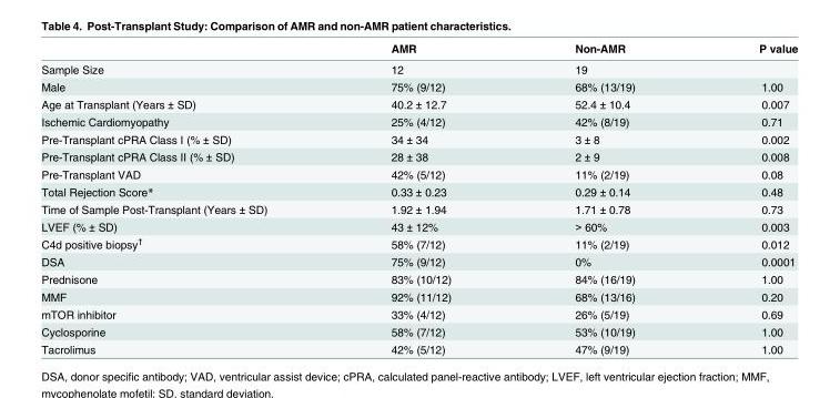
<table><thead><tr><td></td><td>AMR</td><td>Non-AMR</td><td>P value</td></tr></thead><tbody><tr><td>Sample Size</td><td>12</td><td>19</td><td></td></tr><tr><td>Male</td><td>75% (9/12)</td><td>68% (13/19)</td><td>1.00</td></tr><tr><td>Age at Transplant (Years ± SD)</td><td>40.2 ± 12.7</td><td>52.4 ± 10.4</td><td>0.007</td></tr><tr><td>Ischemic Cardiomyopathy</td><td>25% (4/12)</td><td>42% (8/19)</td><td>0.71</td></tr><tr><td>Pre-Transplant cPRA Class I (% ± SD)</td><td>34 ± 34</td><td>3 ± 8</td><td>0.002</td></tr><tr><td>Pre-Transplant cPRA Class II (% ± SD)</td><td>28 ± 38</td><td>2 ± 9</td><td>0.008</td></tr><tr><td>Pre-Transplant VAD</td><td>42% (5/12)</td><td>11% (2/19)</td><td>0.08</td></tr><tr><td>Total Rejection Score*</td><td>0.33 ± 0.23</td><td>0.29 ± 0.14</td><td>0.48</td></tr><tr><td>Time of Sample Post-Transplant (Years ± SD)</td><td>1.92 ± 1.94</td><td>1.71 ± 0.78</td><td>0.73</td></tr><tr><td>LVEF (% ± SD)</td><td>43 ± 12%</td><td>&gt; 60%</td><td>0.003</td></tr><tr><td>C4d positive biopsy<sup>†</sup></td><td>58% (7/12)</td><td>11% (2/19)</td><td>0.012</td></tr><tr><td>DSA</td><td>75% (9/12)</td><td>0%</td><td>0.0001</td></tr><tr><td>Prednisone</td><td>83% (10/12)</td><td>84% (16/19)</td><td>1.00</td></tr><tr><td>MMF</td><td>92% (11/12)</td><td>68% (13/16)</td><td>0.20</td></tr><tr><td>mTOR inhibitor</td><td>33% (4/12)</td><td>26% (5/19)</td><td>0.69</td></tr><tr><td>Cyclosporine</td><td>58% (7/12)</td><td>53% (10/19)</td><td>1.00</td></tr><tr><td>Tacrolimus</td><td>42% (5/12)</td><td>47% (9/19)</td><td>1.00</td></tr></tbody></table>